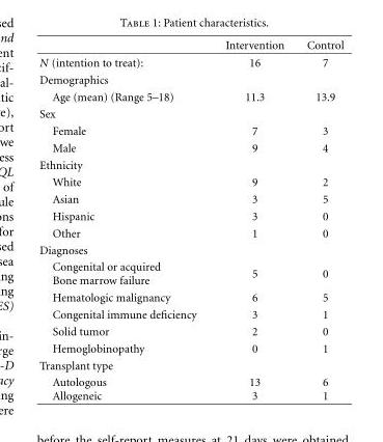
<table><thead><tr><td></td><td>Intervention</td><td>Control</td></tr></thead><tbody><tr><td>N (intention to treat):</td><td>16</td><td>7</td></tr><tr><td colspan="3">Demographics</td></tr><tr><td>Age (mean) (Range 5–18)</td><td>11.3</td><td>13.9</td></tr><tr><td colspan="3">Sex</td></tr><tr><td>Female</td><td>7</td><td>3</td></tr><tr><td>Male</td><td>9</td><td>4</td></tr><tr><td colspan="3">Ethnicity</td></tr><tr><td>White</td><td>9</td><td>2</td></tr><tr><td>Asian</td><td>3</td><td>5</td></tr><tr><td>Hispanic</td><td>3</td><td>0</td></tr><tr><td>Other</td><td>1</td><td>0</td></tr><tr><td colspan="3">Diagnoses</td></tr><tr><td>Congenital or acquired Bone marrow failure</td><td>5</td><td>0</td></tr><tr><td>Hematologic malignancy</td><td>6</td><td>5</td></tr><tr><td>Congenital immune deficiency</td><td>3</td><td>1</td></tr><tr><td>Solid tumor</td><td>2</td><td>0</td></tr><tr><td>Hemoglobinopathy</td><td>0</td><td>1</td></tr><tr><td colspan="3">Transplant type</td></tr><tr><td>Autologous Allogeneic</td><td>13 3</td><td>6 1</td></tr></tbody></table>